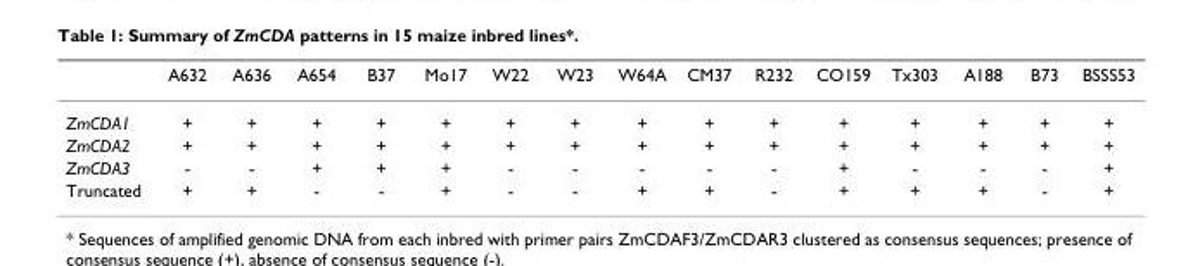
<table><thead><tr><td></td><td>A632</td><td>A636</td><td>A654</td><td>B37</td><td>Mo17</td><td>W22</td><td>W23</td><td>W64A</td><td>CM37</td><td>R232</td><td>CO159</td><td>Tx303</td><td>A188</td><td>B73</td><td>BSSS53</td></tr></thead><tbody><tr><td>ZmCDA1</td><td>+</td><td>+</td><td>+</td><td>+</td><td>+</td><td>+</td><td>+</td><td>+</td><td>+</td><td>+</td><td>+</td><td>+</td><td>+</td><td>+</td><td>+</td></tr><tr><td>ZmCDA2</td><td>+</td><td>+</td><td>+</td><td>+</td><td>+</td><td>+</td><td>+</td><td>+</td><td>+</td><td>+</td><td>+</td><td>+</td><td>+</td><td>+</td><td>+</td></tr><tr><td>ZmCDA3</td><td>-</td><td>-</td><td>+</td><td>+</td><td>+</td><td>-</td><td>-</td><td>-</td><td>-</td><td>-</td><td>+</td><td>-</td><td>-</td><td>-</td><td>+</td></tr><tr><td>Truncated</td><td>+</td><td>+</td><td>-</td><td>-</td><td>+</td><td>-</td><td>-</td><td>+</td><td>+</td><td>-</td><td>+</td><td>+</td><td>+</td><td>-</td><td>+</td></tr></tbody></table>